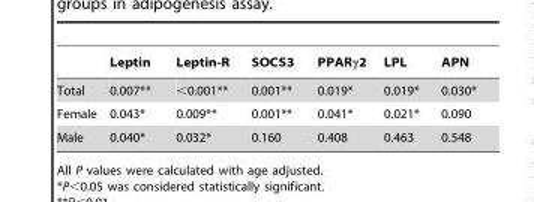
<table><thead><tr><td></td><td>Leptin</td><td>Leptin-R</td><td>SOCS3</td><td>PPARγ2</td><td>LPL</td><td>APN</td></tr></thead><tbody><tr><td>Total</td><td>0.007**</td><td>&lt;0.001**</td><td>0.001**</td><td>0.019*</td><td>0.019*</td><td>0.030*</td></tr><tr><td>Female</td><td>0.043*</td><td>0.009**</td><td>0.001**</td><td>0.041*</td><td>0.021*</td><td>0.090</td></tr><tr><td>Male</td><td>0.040*</td><td>0.032*</td><td>0.160</td><td>0.408</td><td>0.463</td><td>0.548</td></tr></tbody></table>